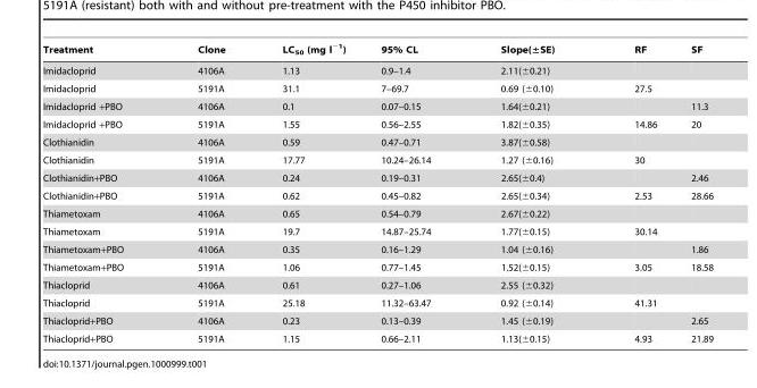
<table><thead><tr><td>Treatment</td><td>Clone</td><td>LC<sub>50</sub> (mg l<sup>−1</sup>)</td><td>95% CL</td><td>Slope(±SE)</td><td>RF</td><td>SF</td></tr></thead><tbody><tr><td>Imidacloprid</td><td>4106A</td><td>1.13</td><td>0.9–1.4</td><td>2.11(±0.21)</td><td></td><td></td></tr><tr><td>Imidacloprid</td><td>5191A</td><td>31.1</td><td>7–69.7</td><td>0.69 (±0.10)</td><td>27.5</td><td></td></tr><tr><td>Imidacloprid +PBO</td><td>4106A</td><td>0.1</td><td>0.07–0.15</td><td>1.64(±0.21)</td><td></td><td>11.3</td></tr><tr><td>Imidacloprid +PBO</td><td>5191A</td><td>1.55</td><td>0.56–2.55</td><td>1.82(±0.35)</td><td>14.86</td><td>20</td></tr><tr><td>Clothianidin</td><td>4106A</td><td>0.59</td><td>0.47–0.71</td><td>3.87(±0.58)</td><td></td><td></td></tr><tr><td>Clothianidin</td><td>5191A</td><td>17.77</td><td>10.24–26.14</td><td>1.27 (±0.16)</td><td>30</td><td></td></tr><tr><td>Clothianidin+PBO</td><td>4106A</td><td>0.24</td><td>0.19–0.31</td><td>2.65(±0.4)</td><td></td><td>2.46</td></tr><tr><td>Clothianidin+PBO</td><td>5191A</td><td>0.62</td><td>0.45–0.82</td><td>2.65(±0.34)</td><td>2.53</td><td>28.66</td></tr><tr><td>Thiametoxam</td><td>4106A</td><td>0.65</td><td>0.54–0.79</td><td>2.67(±0.22)</td><td></td><td></td></tr><tr><td>Thiametoxam</td><td>5191A</td><td>19.7</td><td>14.87–25.74</td><td>1.77(±0.15)</td><td>30.14</td><td></td></tr><tr><td>Thiametoxam+PBO</td><td>4106A</td><td>0.35</td><td>0.16–1.29</td><td>1.04 (±0.16)</td><td></td><td>1.86</td></tr><tr><td>Thiametoxam+PBO</td><td>5191A</td><td>1.06</td><td>0.77–1.45</td><td>1.52(±0.15)</td><td>3.05</td><td>18.58</td></tr><tr><td>Thiacloprid</td><td>4106A</td><td>0.61</td><td>0.27–1.06</td><td>2.55 (±0.32)</td><td></td><td></td></tr><tr><td>Thiacloprid</td><td>5191A</td><td>25.18</td><td>11.32–63.47</td><td>0.92 (±0.14)</td><td>41.31</td><td></td></tr><tr><td>Thiacloprid+PBO</td><td>4106A</td><td>0.23</td><td>0.13–0.39</td><td>1.45 (±0.19)</td><td></td><td>2.65</td></tr><tr><td>Thiacloprid+PBO</td><td>5191A</td><td>1.15</td><td>0.66–2.11</td><td>1.13(±0.15)</td><td>4.93</td><td>21.89</td></tr></tbody></table>